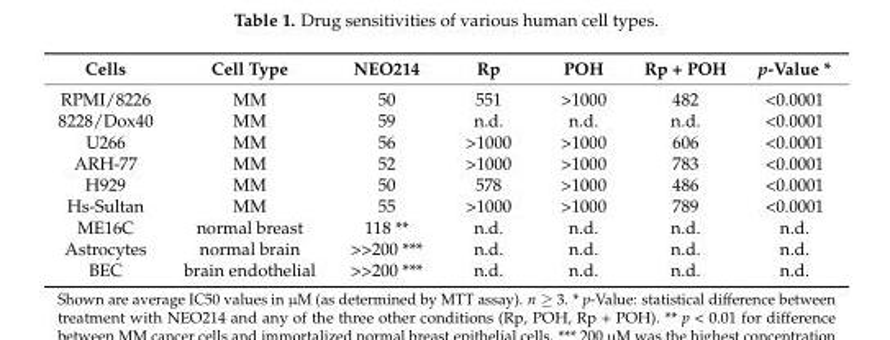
<table><thead><tr><td>Cells</td><td>Cell Type</td><td>NEO214</td><td>Rp</td><td>POH</td><td>Rp + POH</td><td>p-Value *</td></tr></thead><tbody><tr><td>RPMI/8226</td><td>MM</td><td>50</td><td>551</td><td>&gt;1000</td><td>482</td><td>&lt;0.0001</td></tr><tr><td>8228/Dox40</td><td>MM</td><td>59</td><td>n.d.</td><td>n.d.</td><td>n.d.</td><td>&lt;0.0001</td></tr><tr><td>U266</td><td>MM</td><td>56</td><td>&gt;1000</td><td>&gt;1000</td><td>606</td><td>&lt;0.0001</td></tr><tr><td>ARH-77</td><td>MM</td><td>52</td><td>&gt;1000</td><td>&gt;1000</td><td>783</td><td>&lt;0.0001</td></tr><tr><td>H929</td><td>MM</td><td>50</td><td>578</td><td>&gt;1000</td><td>486</td><td>&lt;0.0001</td></tr><tr><td>Hs-Sultan</td><td>MM</td><td>55</td><td>&gt;1000</td><td>&gt;1000</td><td>789</td><td>&lt;0.0001</td></tr><tr><td>ME16C</td><td>normal breast</td><td>118 **</td><td>n.d.</td><td>n.d.</td><td>n.d.</td><td>n.d.</td></tr><tr><td>Astrocytes</td><td>normal brain</td><td>&gt;&gt;200 ***</td><td>n.d.</td><td>n.d.</td><td>n.d.</td><td>n.d.</td></tr><tr><td>BEC</td><td>brain endothelial</td><td>&gt;&gt;200 ***</td><td>n.d.</td><td>n.d.</td><td>n.d.</td><td>n.d.</td></tr></tbody></table>